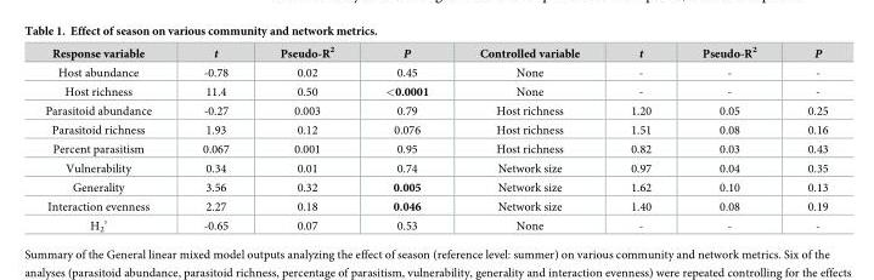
<table><thead><tr><td>Response variable</td><td>t</td><td>Pseudo-R<sup>2</sup></td><td>P</td><td>Controlled variable</td><td>t</td><td>Pseudo-R<sup>2</sup></td><td>P</td></tr></thead><tbody><tr><td>Host abundance</td><td>-0.78</td><td>0.02</td><td>0.45</td><td>None</td><td>-</td><td>-</td><td>-</td></tr><tr><td>Host richness</td><td>11.4</td><td>0.50</td><td>&lt;0.0001</td><td>None</td><td>-</td><td>-</td><td>-</td></tr><tr><td>Parasitoid abundance</td><td>-0.27</td><td>0.003</td><td>0.79</td><td>Host richness</td><td>1.20</td><td>0.05</td><td>0.25</td></tr><tr><td>Parasitoid richness</td><td>1.93</td><td>0.12</td><td>0.076</td><td>Host richness</td><td>1.51</td><td>0.08</td><td>0.16</td></tr><tr><td>Percent parasitism</td><td>0.067</td><td>0.001</td><td>0.95</td><td>Host richness</td><td>0.82</td><td>0.03</td><td>0.43</td></tr><tr><td>Vulnerability</td><td>0.34</td><td>0.01</td><td>0.74</td><td>Network size</td><td>0.97</td><td>0.04</td><td>0.35</td></tr><tr><td>Generality</td><td>3.56</td><td>0.32</td><td>0.005</td><td>Network size</td><td>1.62</td><td>0.10</td><td>0.13</td></tr><tr><td>Interaction evenness</td><td>2.27</td><td>0.18</td><td>0.046</td><td>Network size</td><td>1.40</td><td>0.08</td><td>0.19</td></tr><tr><td>H<sub>2</sub>’</td><td>-0.65</td><td>0.07</td><td>0.53</td><td>None</td><td>-</td><td>-</td><td>-</td></tr></tbody></table>